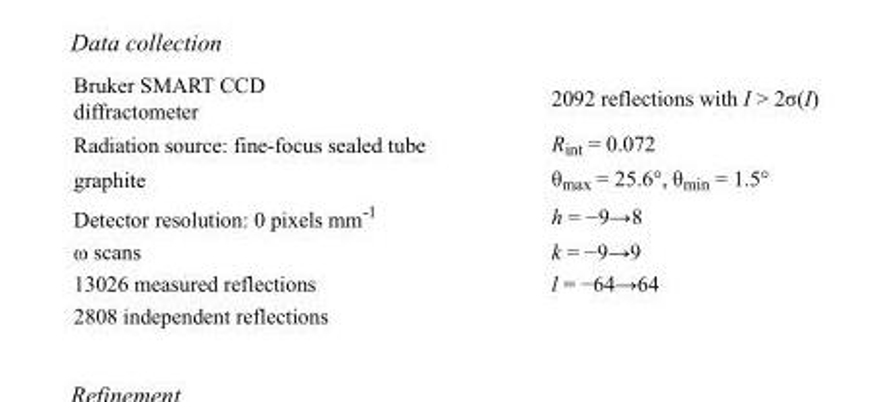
<table><tbody><tr><td>Bruker SMART CCD diffractometer</td><td>2092 reflections with I &gt; 2σ(I)</td></tr><tr><td>Radiation source: fine-focus sealed tube</td><td>R<sub>int</sub> = 0.072</td></tr><tr><td>graphite</td><td>θ<sub>max</sub> = 25.6°, θ<sub>min</sub> = 1.5°</td></tr><tr><td>Detector resolution: 0 pixels mm<sup>-1</sup></td><td>h = −9→8</td></tr><tr><td>ω scans</td><td>k = −9→9</td></tr><tr><td>13026 measured reflections</td><td>l = −64→64</td></tr><tr><td>2808 independent reflections</td><td></td></tr></tbody></table>